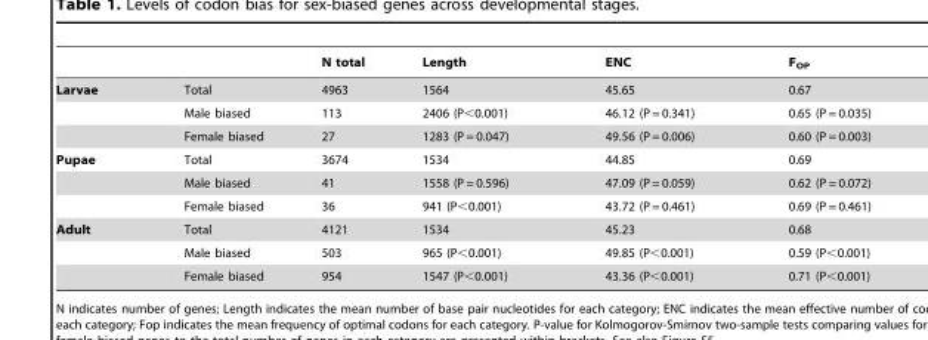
<table><thead><tr><td></td><td></td><td>N total</td><td>Length</td><td>ENC</td><td>F<sub>OP</sub></td></tr></thead><tbody><tr><td rowspan="3">Larvae</td><td>Total</td><td>4963</td><td>1564</td><td>45.65</td><td>0.67</td></tr><tr><td>Male biased</td><td>113</td><td>2406 (P&lt;0.001)</td><td>46.12 (P = 0.341)</td><td>0.65 (P = 0.035)</td></tr><tr><td>Female biased</td><td>27</td><td>1283 (P = 0.047)</td><td>49.56 (P = 0.006)</td><td>0.60 (P = 0.003)</td></tr><tr><td rowspan="3">Pupae</td><td>Total</td><td>3674</td><td>1534</td><td>44.85</td><td>0.69</td></tr><tr><td>Male biased</td><td>41</td><td>1558 (P = 0.596)</td><td>47.09 (P = 0.059)</td><td>0.62 (P = 0.072)</td></tr><tr><td>Female biased</td><td>36</td><td>941 (P&lt;0.001)</td><td>43.72 (P = 0.461)</td><td>0.69 (P = 0.461)</td></tr><tr><td rowspan="3">Adult</td><td>Total</td><td>4121</td><td>1534</td><td>45.23</td><td>0.68</td></tr><tr><td>Male biased</td><td>503</td><td>965 (P&lt;0.001)</td><td>49.85 (P&lt;0.001)</td><td>0.59 (P&lt;0.001)</td></tr><tr><td>Female biased</td><td>954</td><td>1547 (P&lt;0.001)</td><td>43.36 (P&lt;0.001)</td><td>0.71 (P&lt;0.001)</td></tr></tbody></table>